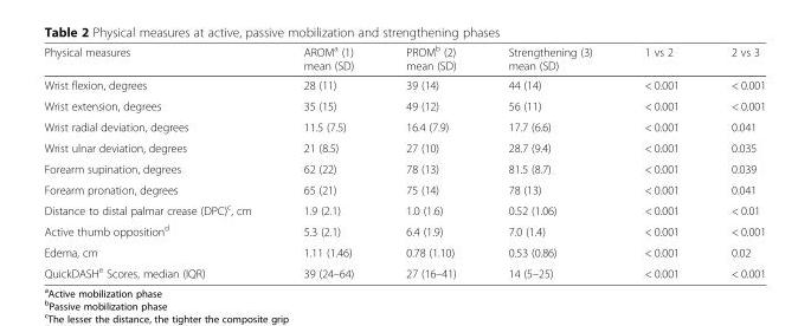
<table><thead><tr><td>Physical measures</td><td>AROM<sup>a</sup> (1) mean (SD)</td><td>PROM<sup>b</sup> (2) mean (SD)</td><td>Strengthening (3) mean (SD)</td><td>1 vs 2</td><td>2 vs 3</td></tr></thead><tbody><tr><td>Wrist flexion, degrees</td><td>28 (11)</td><td>39 (14)</td><td>44 (14)</td><td>&lt; 0.001</td><td>&lt; 0.001</td></tr><tr><td>Wrist extension, degrees</td><td>35 (15)</td><td>49 (12)</td><td>56 (11)</td><td>&lt; 0.001</td><td>&lt; 0.001</td></tr><tr><td>Wrist radial deviation, degrees</td><td>11.5 (7.5)</td><td>16.4 (7.9)</td><td>17.7 (6.6)</td><td>&lt; 0.001</td><td>0.041</td></tr><tr><td>Wrist ulnar deviation, degrees</td><td>21 (8.5)</td><td>27 (10)</td><td>28.7 (9.4)</td><td>&lt; 0.001</td><td>0.035</td></tr><tr><td>Forearm supination, degrees</td><td>62 (22)</td><td>78 (13)</td><td>81.5 (8.7)</td><td>&lt; 0.001</td><td>0.039</td></tr><tr><td>Forearm pronation, degrees</td><td>65 (21)</td><td>75 (14)</td><td>78 (13)</td><td>&lt; 0.001</td><td>0.041</td></tr><tr><td>Distance to distal palmar crease (DPC)<sup>c</sup>, cm</td><td>1.9 (2.1)</td><td>1.0 (1.6)</td><td>0.52 (1.06)</td><td>&lt; 0.001</td><td>&lt; 0.01</td></tr><tr><td>Active thumb opposition<sup>d</sup></td><td>5.3 (2.1)</td><td>6.4 (1.9)</td><td>7.0 (1.4)</td><td>&lt; 0.001</td><td>&lt; 0.001</td></tr><tr><td>Edema, cm</td><td>1.11 (1.46)</td><td>0.78 (1.10)</td><td>0.53 (0.86)</td><td>&lt; 0.001</td><td>0.02</td></tr><tr><td>QuickDASH<sup>e</sup> Scores, median (IQR)</td><td>39 (24–64)</td><td>27 (16–41)</td><td>14 (5–25)</td><td>&lt; 0.001</td><td>&lt; 0.001</td></tr></tbody></table>